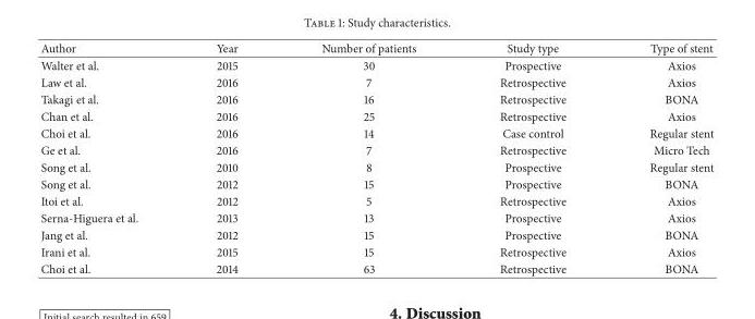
<table><thead><tr><td>Author</td><td>Year</td><td>Number of patients</td><td>Study type</td><td>Type of stent</td></tr></thead><tbody><tr><td>Walter et al.</td><td>2015</td><td>30</td><td>Prospective</td><td>Axios</td></tr><tr><td>Law et al.</td><td>2016</td><td>7</td><td>Retrospective</td><td>Axios</td></tr><tr><td>Takagi et al.</td><td>2016</td><td>16</td><td>Retrospective</td><td>BONA</td></tr><tr><td>Chan et al.</td><td>2016</td><td>25</td><td>Retrospective</td><td>Axios</td></tr><tr><td>Choi et al.</td><td>2016</td><td>14</td><td>Case control</td><td>Regular stent</td></tr><tr><td>Ge et al.</td><td>2016</td><td>7</td><td>Retrospective</td><td>Micro Tech</td></tr><tr><td>Song et al.</td><td>2010</td><td>8</td><td>Prospective</td><td>Regular stent</td></tr><tr><td>Song et al.</td><td>2012</td><td>15</td><td>Prospective</td><td>BONA</td></tr><tr><td>Itoi et al.</td><td>2012</td><td>5</td><td>Retrospective</td><td>Axios</td></tr><tr><td>Serna-Higuera et al.</td><td>2013</td><td>13</td><td>Prospective</td><td>Axios</td></tr><tr><td>Jang et al.</td><td>2012</td><td>15</td><td>Prospective</td><td>BONA</td></tr><tr><td>Irani et al.</td><td>2015</td><td>15</td><td>Retrospective</td><td>Axios</td></tr><tr><td>Choi et al.</td><td>2014</td><td>63</td><td>Retrospective</td><td>BONA</td></tr></tbody></table>